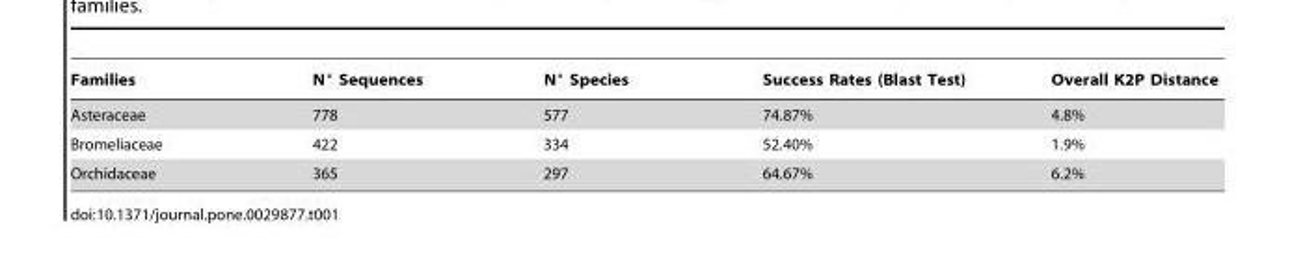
<table><thead><tr><td>Families</td><td>N° Sequences</td><td>N° Species</td><td>Success Rates (Blast Test)</td><td>Overall K2P Distance</td></tr></thead><tbody><tr><td>Asteraceae</td><td>778</td><td>577</td><td>74.87%</td><td>4.8%</td></tr><tr><td>Bromeliaceae</td><td>422</td><td>334</td><td>52.40%</td><td>1.9%</td></tr><tr><td>Orchidaceae</td><td>365</td><td>297</td><td>64.67%</td><td>6.2%</td></tr></tbody></table>